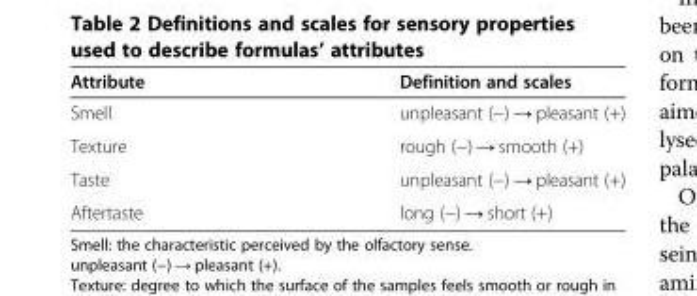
<table><thead><tr><td>Attribute</td><td>Definition and scales</td></tr></thead><tbody><tr><td>Smell</td><td>unpleasant (−) → pleasant (+)</td></tr><tr><td>Texture</td><td>rough (−) → smooth (+)</td></tr><tr><td>Taste</td><td>unpleasant (−) → pleasant (+)</td></tr><tr><td>Aftertaste</td><td>long (−) → short (+)</td></tr></tbody></table>